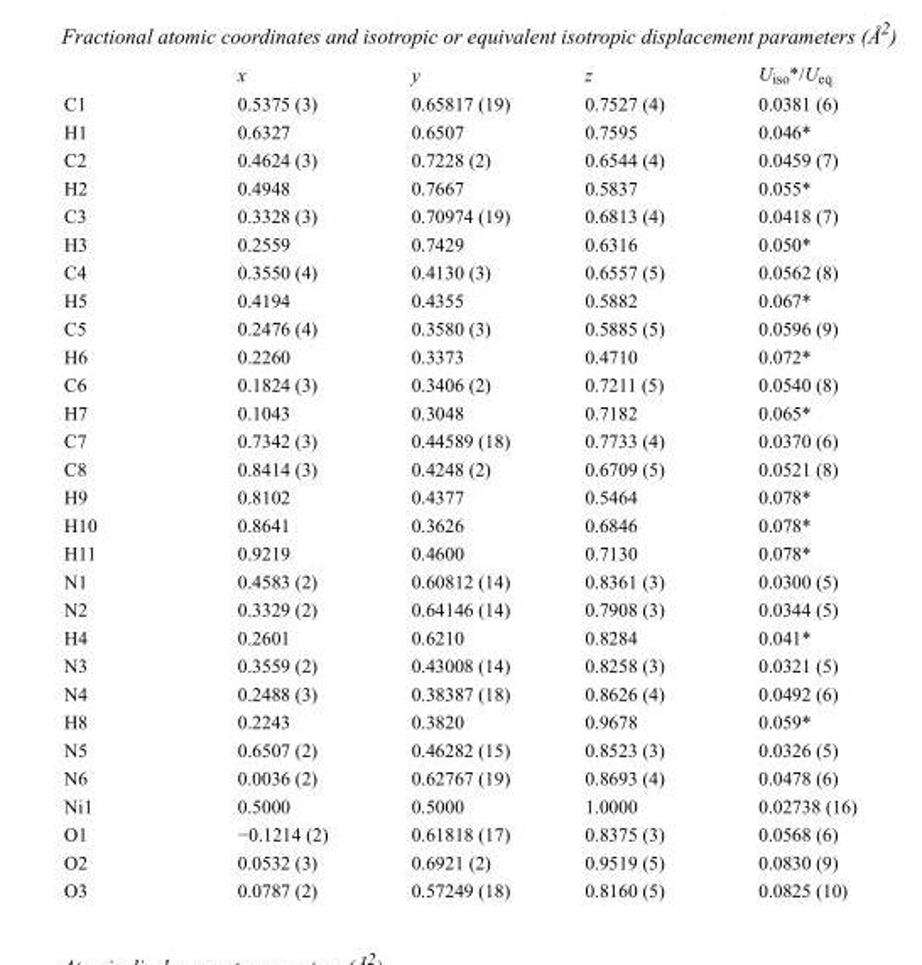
<table><thead><tr><td></td><td>x</td><td>y</td><td>z</td><td>U<sub>iso</sub>*/U<sub>eq</sub></td></tr></thead><tbody><tr><td>C1</td><td>0.5375 (3)</td><td>0.65817 (19)</td><td>0.7527 (4)</td><td>0.0381 (6)</td></tr><tr><td>H1</td><td>0.6327</td><td>0.6507</td><td>0.7595</td><td>0.046*</td></tr><tr><td>C2</td><td>0.4624 (3)</td><td>0.7228 (2)</td><td>0.6544 (4)</td><td>0.0459 (7)</td></tr><tr><td>H2</td><td>0.4948</td><td>0.7667</td><td>0.5837</td><td>0.055*</td></tr><tr><td>C3</td><td>0.3328 (3)</td><td>0.70974 (19)</td><td>0.6813 (4)</td><td>0.0418 (7)</td></tr><tr><td>H3</td><td>0.2559</td><td>0.7429</td><td>0.6316</td><td>0.050*</td></tr><tr><td>C4</td><td>0.3550 (4)</td><td>0.4130 (3)</td><td>0.6557 (5)</td><td>0.0562 (8)</td></tr><tr><td>H5</td><td>0.4194</td><td>0.4355</td><td>0.5882</td><td>0.067*</td></tr><tr><td>C5</td><td>0.2476 (4)</td><td>0.3580 (3)</td><td>0.5885 (5)</td><td>0.0596 (9)</td></tr><tr><td>H6</td><td>0.2260</td><td>0.3373</td><td>0.4710</td><td>0.072*</td></tr><tr><td>C6</td><td>0.1824 (3)</td><td>0.3406 (2)</td><td>0.7211 (5)</td><td>0.0540 (8)</td></tr><tr><td>H7</td><td>0.1043</td><td>0.3048</td><td>0.7182</td><td>0.065*</td></tr><tr><td>C7</td><td>0.7342 (3)</td><td>0.44589 (18)</td><td>0.7733 (4)</td><td>0.0370 (6)</td></tr><tr><td>C8</td><td>0.8414 (3)</td><td>0.4248 (2)</td><td>0.6709 (5)</td><td>0.0521 (8)</td></tr><tr><td>H9</td><td>0.8102</td><td>0.4377</td><td>0.5464</td><td>0.078*</td></tr><tr><td>H10</td><td>0.8641</td><td>0.3626</td><td>0.6846</td><td>0.078*</td></tr><tr><td>H11</td><td>0.9219</td><td>0.4600</td><td>0.7130</td><td>0.078*</td></tr><tr><td>N1</td><td>0.4583 (2)</td><td>0.60812 (14)</td><td>0.8361 (3)</td><td>0.0300 (5)</td></tr><tr><td>N2</td><td>0.3329 (2)</td><td>0.64146 (14)</td><td>0.7908 (3)</td><td>0.0344 (5)</td></tr><tr><td>H4</td><td>0.2601</td><td>0.6210</td><td>0.8284</td><td>0.041*</td></tr><tr><td>N3</td><td>0.3559 (2)</td><td>0.43008 (14)</td><td>0.8258 (3)</td><td>0.0321 (5)</td></tr><tr><td>N4</td><td>0.2488 (3)</td><td>0.38387 (18)</td><td>0.8626 (4)</td><td>0.0492 (6)</td></tr><tr><td>H8</td><td>0.2243</td><td>0.3820</td><td>0.9678</td><td>0.059*</td></tr><tr><td>N5</td><td>0.6507 (2)</td><td>0.46282 (15)</td><td>0.8523 (3)</td><td>0.0326 (5)</td></tr><tr><td>N6</td><td>0.0036 (2)</td><td>0.62767 (19)</td><td>0.8693 (4)</td><td>0.0478 (6)</td></tr><tr><td>Ni1</td><td>0.5000</td><td>0.5000</td><td>1.0000</td><td>0.02738 (16)</td></tr><tr><td>O1</td><td>−0.1214 (2)</td><td>0.61818 (17)</td><td>0.8375 (3)</td><td>0.0568 (6)</td></tr><tr><td>O2</td><td>0.0532 (3)</td><td>0.6921 (2)</td><td>0.9519 (5)</td><td>0.0830 (9)</td></tr><tr><td>O3</td><td>0.0787 (2)</td><td>0.57249 (18)</td><td>0.8160 (5)</td><td>0.0825 (10)</td></tr></tbody></table>